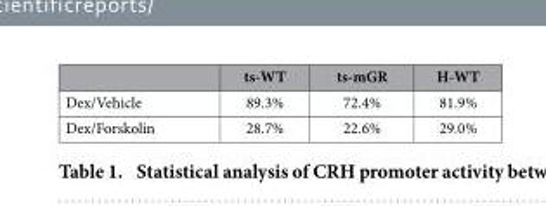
<table><thead><tr><td></td><td>ts-WT</td><td>ts-mGR</td><td>H-WT</td></tr></thead><tbody><tr><td>Dex/Vehicle</td><td>89.3%</td><td>72.4%</td><td>81.9%</td></tr><tr><td>Dex/Forskolin</td><td>28.7%</td><td>22.6%</td><td>29.0%</td></tr></tbody></table>